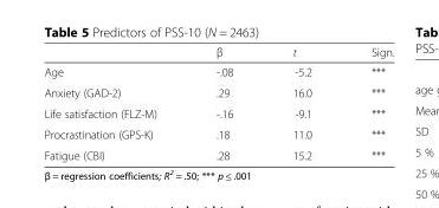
<table><thead><tr><td></td><td>β</td><td>t</td><td>Sign.</td></tr></thead><tbody><tr><td>Age</td><td>-.08</td><td>-5.2</td><td>***</td></tr><tr><td>Anxiety (GAD-2)</td><td>.29</td><td>16.0</td><td>***</td></tr><tr><td>Life satisfaction (FLZ-M)</td><td>-.16</td><td>-9.1</td><td>***</td></tr><tr><td>Procrastination (GPS-K)</td><td>.18</td><td>11.0</td><td>***</td></tr><tr><td>Fatigue (CBI)</td><td>.28</td><td>15.2</td><td>***</td></tr></tbody></table>